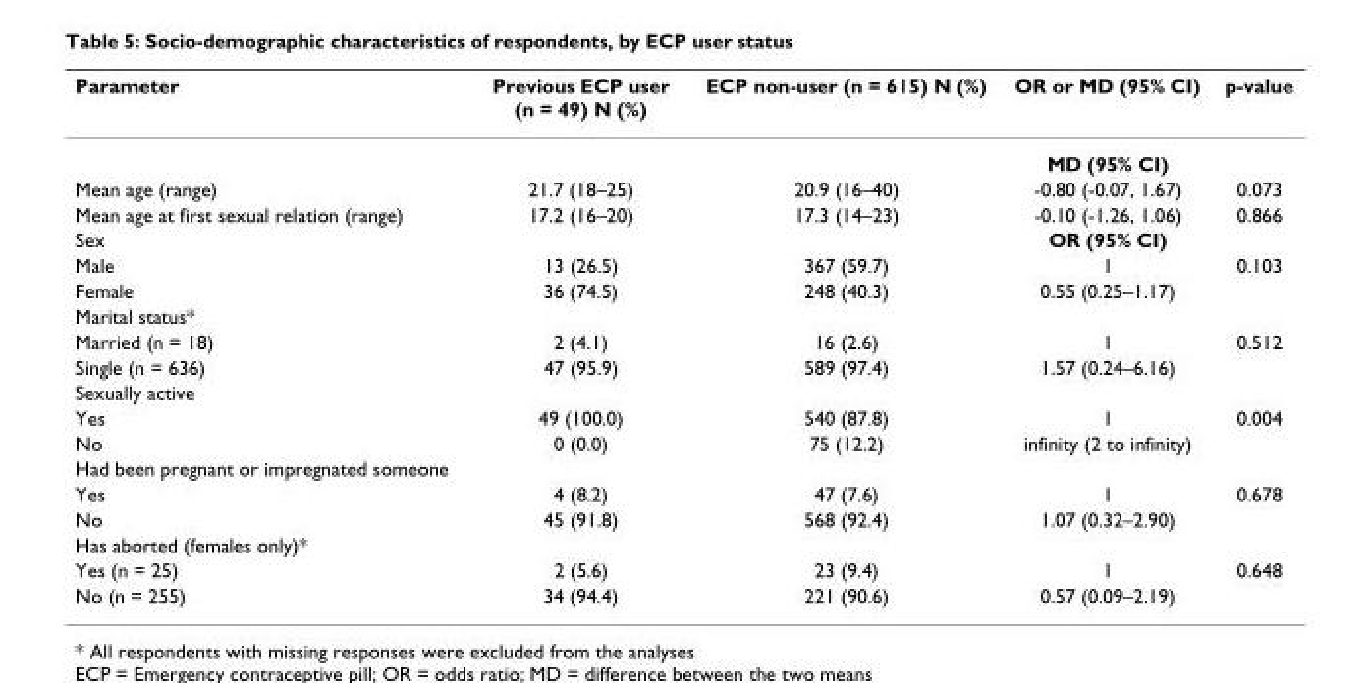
<table><thead><tr><td>Parameter</td><td>Previous ECP user (n = 49) N (%)</td><td>ECP non-user (n = 615) N (%)</td><td>OR or MD (95% CI)</td><td>p-value</td></tr></thead><tbody><tr><td></td><td></td><td></td><td>MD (95% CI)</td><td></td></tr><tr><td>Mean age (range)</td><td>21.7 (18–25)</td><td>20.9 (16–40)</td><td>-0.80 (-0.07, 1.67)</td><td>0.073</td></tr><tr><td>Mean age at first sexual relation (range)</td><td>17.2 (16–20)</td><td>17.3 (14–23)</td><td>-0.10 (-1.26, 1.06)</td><td>0.866</td></tr><tr><td>Sex</td><td></td><td></td><td>OR (95% CI)</td><td></td></tr><tr><td>Male</td><td>13 (26.5)</td><td>367 (59.7)</td><td>1</td><td>0.103</td></tr><tr><td>Female</td><td>36 (74.5)</td><td>248 (40.3)</td><td>0.55 (0.25–1.17)</td><td></td></tr><tr><td colspan="5">Marital status*</td></tr><tr><td>Married (n = 18)</td><td>2 (4.1)</td><td>16 (2.6)</td><td>1</td><td>0.512</td></tr><tr><td>Single (n = 636)</td><td>47 (95.9)</td><td>589 (97.4)</td><td>1.57 (0.24–6.16)</td><td></td></tr><tr><td colspan="5">Sexually active</td></tr><tr><td>Yes</td><td>49 (100.0)</td><td>540 (87.8)</td><td>1</td><td>0.004</td></tr><tr><td>No</td><td>0 (0.0)</td><td>75 (12.2)</td><td>infinity (2 to infinity)</td><td></td></tr><tr><td colspan="5">Had been pregnant or impregnated someone</td></tr><tr><td>Yes</td><td>4 (8.2)</td><td>47 (7.6)</td><td>1</td><td>0.678</td></tr><tr><td>No</td><td>45 (91.8)</td><td>568 (92.4)</td><td>1.07 (0.32–2.90)</td><td></td></tr><tr><td colspan="5">Has aborted (females only)*</td></tr><tr><td>Yes (n = 25)</td><td>2 (5.6)</td><td>23 (9.4)</td><td>1</td><td>0.648</td></tr><tr><td>No (n = 255)</td><td>34 (94.4)</td><td>221 (90.6)</td><td>0.57 (0.09–2.19)</td><td></td></tr></tbody></table>